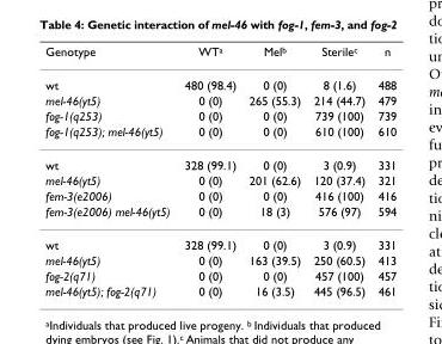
<table><thead><tr><td>Genotype</td><td>WT<sup>a</sup></td><td>Mel<sup>b</sup></td><td>Sterile<sup>c</sup></td><td>n</td></tr></thead><tbody><tr><td>wt</td><td>480 (98.4)</td><td>0 (0)</td><td>8 (1.6)</td><td>488</td></tr><tr><td>mel-46(yt5)</td><td>0 (0)</td><td>265 (55.3)</td><td>214 (44.7)</td><td>479</td></tr><tr><td>fog-1(q253)</td><td>0 (0)</td><td>0 (0)</td><td>739 (100)</td><td>739</td></tr><tr><td>fog-1(q253); mel-46(yt5)</td><td>0 (0)</td><td>0 (0)</td><td>610 (100)</td><td>610</td></tr><tr><td>wt</td><td>328 (99.1)</td><td>0 (0)</td><td>3 (0.9)</td><td>331</td></tr><tr><td>mel-46(yt5)</td><td>0 (0)</td><td>201 (62.6)</td><td>120 (37.4)</td><td>321</td></tr><tr><td>fem-3(e2006)</td><td>0 (0)</td><td>0 (0)</td><td>416 (100)</td><td>416</td></tr><tr><td>fem-3(e2006) mel-46(yt5)</td><td>0 (0)</td><td>18 (3)</td><td>576 (97)</td><td>594</td></tr><tr><td>wt</td><td>328 (99.1)</td><td>0 (0)</td><td>3 (0.9)</td><td>331</td></tr><tr><td>mel-46(yt5)</td><td>0 (0)</td><td>163 (39.5)</td><td>250 (60.5)</td><td>413</td></tr><tr><td>fog-2(q71)</td><td>0 (0)</td><td>0 (0)</td><td>457 (100)</td><td>457</td></tr><tr><td>mel-46(yt5); fog-2(q71)</td><td>0 (0)</td><td>16 (3.5)</td><td>445 (96.5)</td><td>461</td></tr></tbody></table>